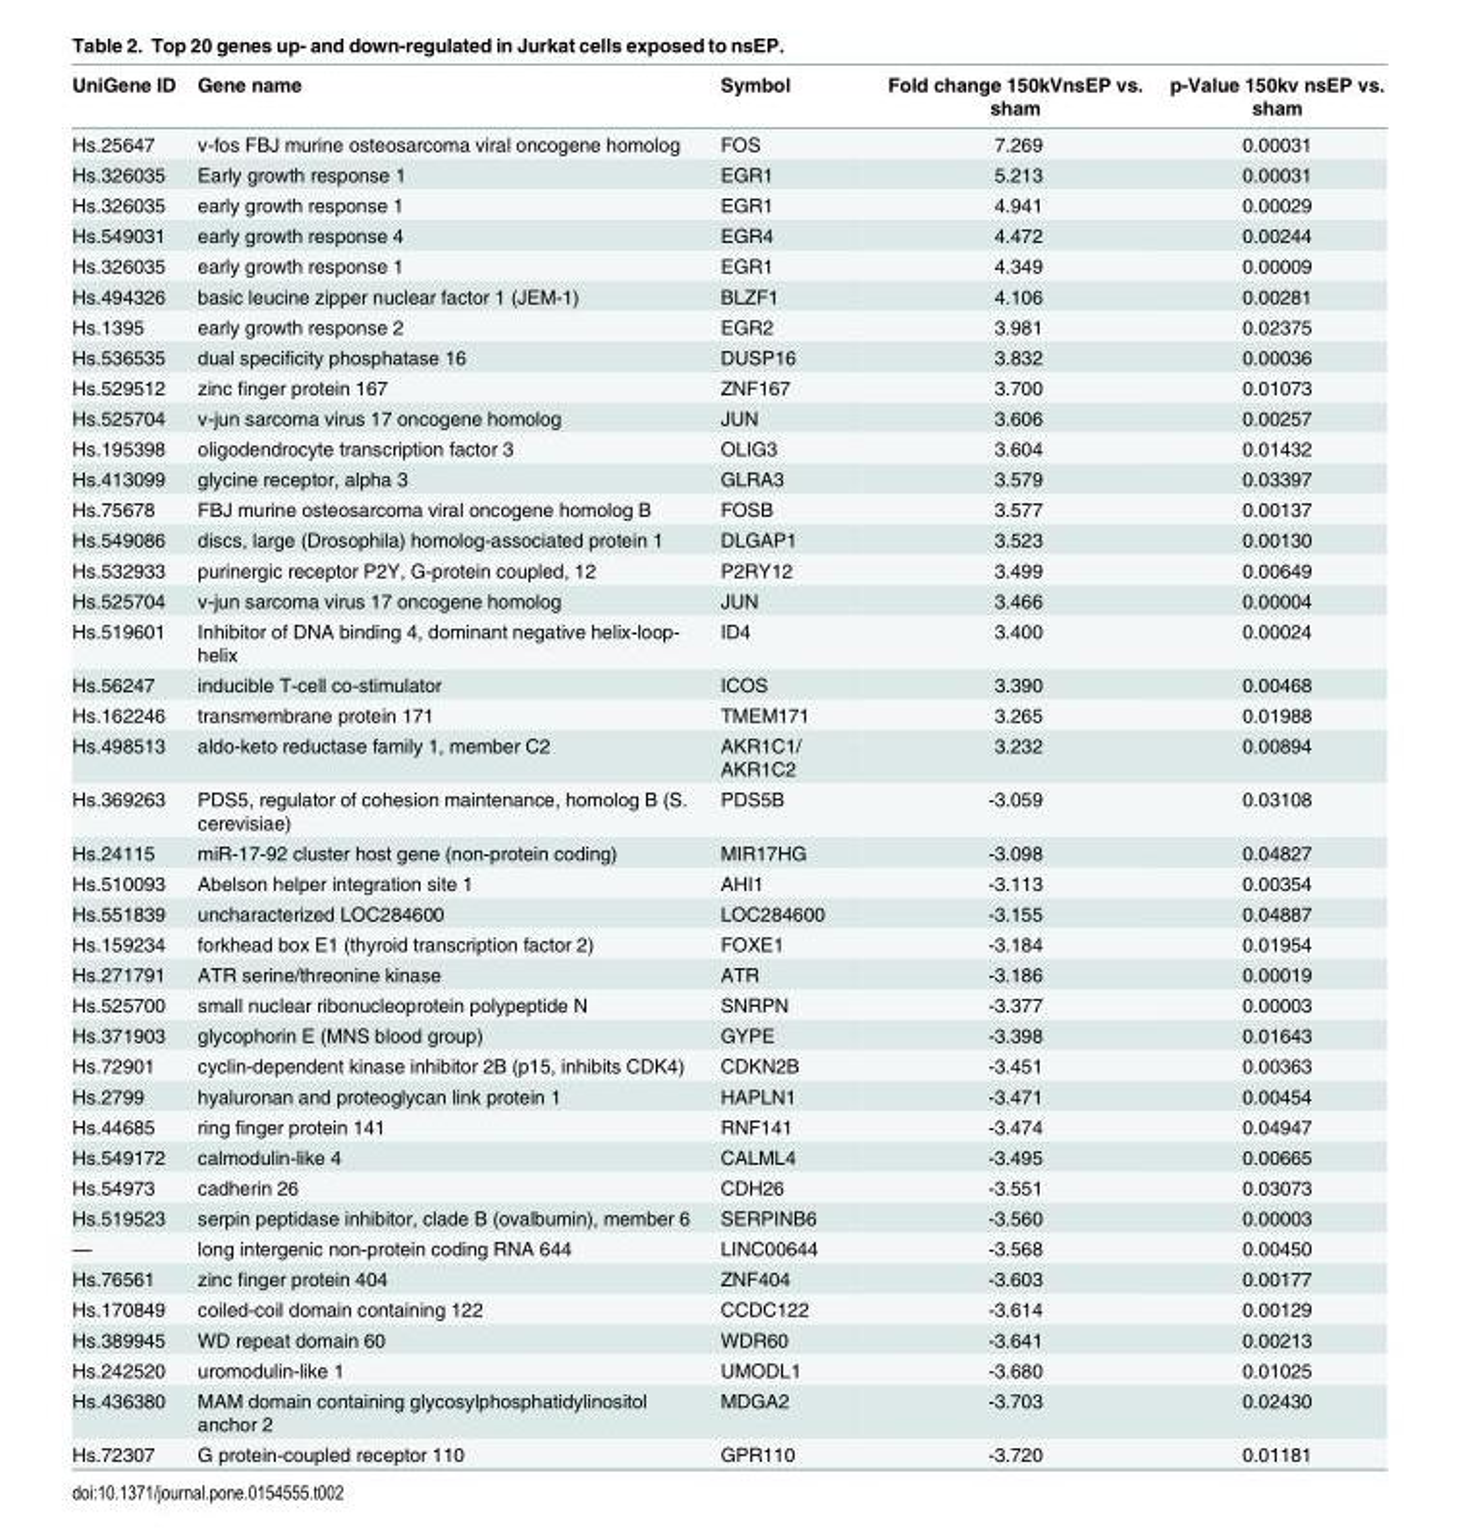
<table><thead><tr><td>UniGene ID</td><td>Gene name</td><td>Symbol</td><td>Fold change 150kVnsEP vs. sham</td><td>p-Value 150kv nsEP vs. sham</td></tr></thead><tbody><tr><td>Hs.25647</td><td>v-fos FBJ murine osteosarcoma viral oncogene homolog</td><td>FOS</td><td>7.269</td><td>0.00031</td></tr><tr><td>Hs.326035</td><td>Early growth response 1</td><td>EGR1</td><td>5.213</td><td>0.00031</td></tr><tr><td>Hs.326035</td><td>early growth response 1</td><td>EGR1</td><td>4.941</td><td>0.00029</td></tr><tr><td>Hs.549031</td><td>early growth response 4</td><td>EGR4</td><td>4.472</td><td>0.00244</td></tr><tr><td>Hs.326035</td><td>early growth response 1</td><td>EGR1</td><td>4.349</td><td>0.00009</td></tr><tr><td>Hs.494326</td><td>basic leucine zipper nuclear factor 1 (JEM-1)</td><td>BLZF1</td><td>4.106</td><td>0.00281</td></tr><tr><td>Hs.1395</td><td>early growth response 2</td><td>EGR2</td><td>3.981</td><td>0.02375</td></tr><tr><td>Hs.536535</td><td>dual specificity phosphatase 16</td><td>DUSP16</td><td>3.832</td><td>0.00036</td></tr><tr><td>Hs.529512</td><td>zinc finger protein 167</td><td>ZNF167</td><td>3.700</td><td>0.01073</td></tr><tr><td>Hs.525704</td><td>v-jun sarcoma virus 17 oncogene homolog</td><td>JUN</td><td>3.606</td><td>0.00257</td></tr><tr><td>Hs.195398</td><td>oligodendrocyte transcription factor 3</td><td>OLIG3</td><td>3.604</td><td>0.01432</td></tr><tr><td>Hs.413099</td><td>glycine receptor, alpha 3</td><td>GLRA3</td><td>3.579</td><td>0.03397</td></tr><tr><td>Hs.75678</td><td>FBJ murine osteosarcoma viral oncogene homolog B</td><td>FOSB</td><td>3.577</td><td>0.00137</td></tr><tr><td>Hs.549086</td><td>discs, large (Drosophila) homolog-associated protein 1</td><td>DLGAP1</td><td>3.523</td><td>0.00130</td></tr><tr><td>Hs.532933</td><td>purinergic receptor P2Y, G-protein coupled, 12</td><td>P2RY12</td><td>3.499</td><td>0.00649</td></tr><tr><td>Hs.525704</td><td>v-jun sarcoma virus 17 oncogene homolog</td><td>JUN</td><td>3.466</td><td>0.00004</td></tr><tr><td>Hs.519601</td><td>Inhibitor of DNA binding 4, dominant negative helix-loop- helix</td><td>ID4</td><td>3.400</td><td>0.00024</td></tr><tr><td>Hs.56247</td><td>inducible T-cell co-stimulator</td><td>ICOS</td><td>3.390</td><td>0.00468</td></tr><tr><td>Hs.162246</td><td>transmembrane protein 171</td><td>TMEM171</td><td>3.265</td><td>0.01988</td></tr><tr><td>Hs.498513</td><td>aldo-keto reductase family 1, member C2</td><td>AKR1C1/ AKR1C2</td><td>3.232</td><td>0.00894</td></tr><tr><td>Hs.369263</td><td>PDS5, regulator of cohesion maintenance, homolog B (S. cerevisiae)</td><td>PDS5B</td><td>-3.059</td><td>0.03108</td></tr><tr><td>Hs.24115</td><td>miR-17-92 cluster host gene (non-protein coding)</td><td>MIR17HG</td><td>-3.098</td><td>0.04827</td></tr><tr><td>Hs.510093</td><td>Abelson helper integration site 1</td><td>AHI1</td><td>-3.113</td><td>0.00354</td></tr><tr><td>Hs.551839</td><td>uncharacterized LOC284600</td><td>LOC284600</td><td>-3.155</td><td>0.04887</td></tr><tr><td>Hs.159234</td><td>forkhead box E1 (thyroid transcription factor 2)</td><td>FOXE1</td><td>-3.184</td><td>0.01954</td></tr><tr><td>Hs.271791</td><td>ATR serine/threonine kinase</td><td>ATR</td><td>-3.186</td><td>0.00019</td></tr><tr><td>Hs.525700</td><td>small nuclear ribonucleoprotein polypeptide N</td><td>SNRPN</td><td>-3.377</td><td>0.00003</td></tr><tr><td>Hs.371903</td><td>glycophorin E (MNS blood group)</td><td>GYPE</td><td>-3.398</td><td>0.01643</td></tr><tr><td>Hs.72901</td><td>cyclin-dependent kinase inhibitor 2B (p15, inhibits CDK4)</td><td>CDKN2B</td><td>-3.451</td><td>0.00363</td></tr><tr><td>Hs.2799</td><td>hyaluronan and proteoglycan link protein 1</td><td>HAPLN1</td><td>-3.471</td><td>0.00454</td></tr><tr><td>Hs.44685</td><td>ring finger protein 141</td><td>RNF141</td><td>-3.474</td><td>0.04947</td></tr><tr><td>Hs.549172</td><td>calmodulin-like 4</td><td>CALML4</td><td>-3.495</td><td>0.00665</td></tr><tr><td>Hs.54973</td><td>cadherin 26</td><td>CDH26</td><td>-3.551</td><td>0.03073</td></tr><tr><td>Hs.519523</td><td>serpin peptidase inhibitor, clade B (ovalbumin), member 6</td><td>SERPINB6</td><td>-3.560</td><td>0.00003</td></tr><tr><td>—</td><td>long intergenic non-protein coding RNA 644</td><td>LINC00644</td><td>-3.568</td><td>0.00450</td></tr><tr><td>Hs.76561</td><td>zinc finger protein 404</td><td>ZNF404</td><td>-3.603</td><td>0.00177</td></tr><tr><td>Hs.170849</td><td>coiled-coil domain containing 122</td><td>CCDC122</td><td>-3.614</td><td>0.00129</td></tr><tr><td>Hs.389945</td><td>WD repeat domain 60</td><td>WDR60</td><td>-3.641</td><td>0.00213</td></tr><tr><td>Hs.242520</td><td>uromodulin-like 1</td><td>UMODL1</td><td>-3.680</td><td>0.01025</td></tr><tr><td>Hs.436380</td><td>MAM domain containing glycosylphosphatidylinositol anchor 2</td><td>MDGA2</td><td>-3.703</td><td>0.02430</td></tr><tr><td>Hs.72307</td><td>G protein-coupled receptor 110</td><td>GPR110</td><td>-3.720</td><td>0.01181</td></tr></tbody></table>